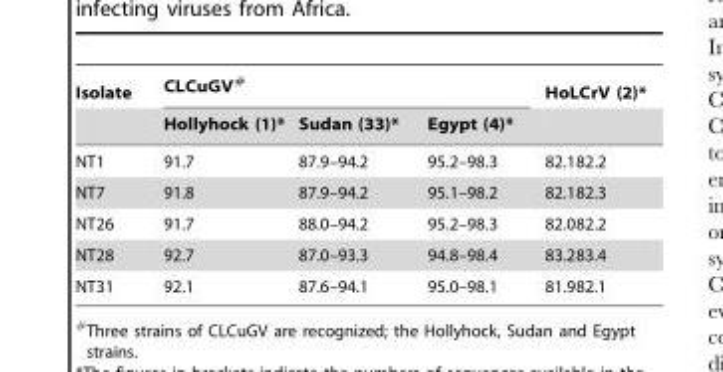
<table><thead><tr><td rowspan="2">Isolate</td><td colspan="3">CLCuGV#</td><td rowspan="2">HoLCrV (2)*</td></tr><tr><td>Hollyhock (1)*</td><td>Sudan (33)*</td><td>Egypt (4)*</td></tr></thead><tbody><tr><td>NT1</td><td>91.7</td><td>87.9–94.2</td><td>95.2–98.3</td><td>82.182.2</td></tr><tr><td>NT7</td><td>91.8</td><td>87.9–94.2</td><td>95.1–98.2</td><td>82.182.3</td></tr><tr><td>NT26</td><td>91.7</td><td>88.0–94.2</td><td>95.2–98.3</td><td>82.082.2</td></tr><tr><td>NT28</td><td>92.7</td><td>87.0–93.3</td><td>94.8–98.4</td><td>83.283.4</td></tr><tr><td>NT31</td><td>92.1</td><td>87.6–94.1</td><td>95.0–98.1</td><td>81.982.1</td></tr></tbody></table>